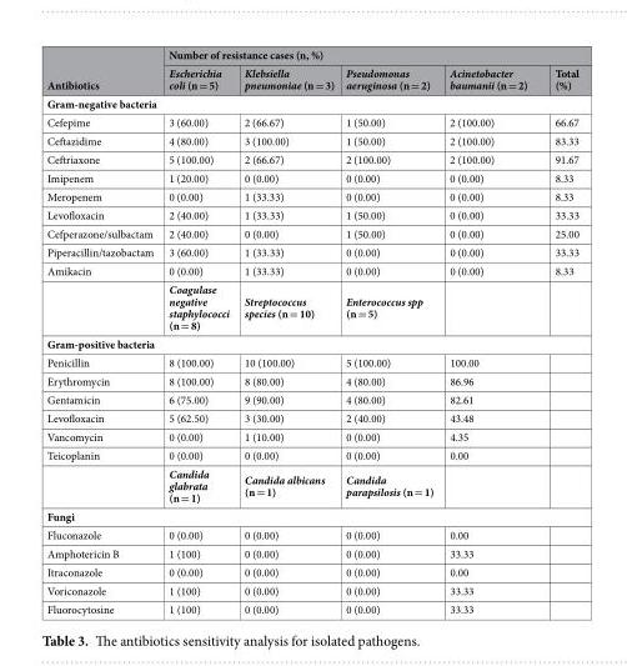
<table><thead><tr><td rowspan="2">Antibiotics</td><td colspan="5">Number of resistance cases (n, %)</td></tr><tr><td>Escherichia coli (n = 5)</td><td>Klebsiella pneumoniae (n = 3)</td><td>Pseudomonas aeruginosa (n = 2)</td><td>Acinetobacter baumanii (n = 2)</td><td>Total (%)</td></tr></thead><tbody><tr><td colspan="6">Gram-negative bacteria</td></tr><tr><td>Cefepime</td><td>3 (60.00)</td><td>2 (66.67)</td><td>1 (50.00)</td><td>2 (100.00)</td><td>66.67</td></tr><tr><td>Ceftazidime</td><td>4 (80.00)</td><td>3 (100.00)</td><td>1 (50.00)</td><td>2 (100.00)</td><td>83.33</td></tr><tr><td>Ceftriaxone</td><td>5 (100.00)</td><td>2 (66.67)</td><td>2 (100.00)</td><td>2 (100.00)</td><td>91.67</td></tr><tr><td>Imipenem</td><td>1 (20.00)</td><td>0 (0.00)</td><td>0 (0.00)</td><td>0 (0.00)</td><td>8.33</td></tr><tr><td>Meropenem</td><td>0 (0.00)</td><td>1 (33.33)</td><td>0 (0.00)</td><td>0 (0.00)</td><td>8.33</td></tr><tr><td>Levofloxacin</td><td>2 (40.00)</td><td>1 (33.33)</td><td>1 (50.00)</td><td>0 (0.00)</td><td>33.33</td></tr><tr><td>Cefperazone/sulbactam</td><td>2 (40.00)</td><td>0 (0.00)</td><td>1 (50.00)</td><td>0 (0.00)</td><td>25.00</td></tr><tr><td>Piperacillin/tazobactam</td><td>3 (60.00)</td><td>1 (33.33)</td><td>0 (0.00)</td><td>0 (0.00)</td><td>33.33</td></tr><tr><td rowspan="2">Amikacin</td><td>0 (0.00)</td><td>1 (33.33)</td><td>0 (0.00)</td><td>0 (0.00)</td><td>8.33</td></tr><tr><td>Coagulase negative staphylococci (n = 8)</td><td>Streptococcus species (n = 10)</td><td>Enterococcus spp (n = 5)</td><td></td><td></td></tr><tr><td colspan="6">Gram-positive bacteria</td></tr><tr><td>Penicillin</td><td>8 (100.00)</td><td>10 (100.00)</td><td>5 (100.00)</td><td>100.00</td><td></td></tr><tr><td>Erythromycin</td><td>8 (100.00)</td><td>8 (80.00)</td><td>4 (80.00)</td><td>86.96</td><td></td></tr><tr><td>Gentamicin</td><td>6 (75.00)</td><td>9 (90.00)</td><td>4 (80.00)</td><td>82.61</td><td></td></tr><tr><td>Levofloxacin</td><td>5 (62.50)</td><td>3 (30.00)</td><td>2 (40.00)</td><td>43.48</td><td></td></tr><tr><td>Vancomycin</td><td>0 (0.00)</td><td>1 (10.00)</td><td>0 (0.00)</td><td>4.35</td><td></td></tr><tr><td rowspan="2">Teicoplanin</td><td>0 (0.00)</td><td>0 (0.00)</td><td>0 (0.00)</td><td>0.00</td><td></td></tr><tr><td>Candida glabrata (n = 1)</td><td>Candida albicans (n = 1)</td><td>Candida parapsilosis (n = 1)</td><td></td><td></td></tr><tr><td colspan="6">Fungi</td></tr><tr><td>Fluconazole</td><td>0 (0.00)</td><td>0 (0.00)</td><td>0 (0.00)</td><td>0.00</td><td></td></tr><tr><td>Amphotericin B</td><td>1 (100)</td><td>0 (0.00)</td><td>0 (0.00)</td><td>33.33</td><td></td></tr><tr><td>Itraconazole</td><td>0 (0.00)</td><td>0 (0.00)</td><td>0 (0.00)</td><td>0.00</td><td></td></tr><tr><td>Voriconazole</td><td>1 (100)</td><td>0 (0.00)</td><td>0 (0.00)</td><td>33.33</td><td></td></tr><tr><td>Fluorocytosine</td><td>1 (100)</td><td>0 (0.00)</td><td>0 (0.00)</td><td>33.33</td><td></td></tr></tbody></table>